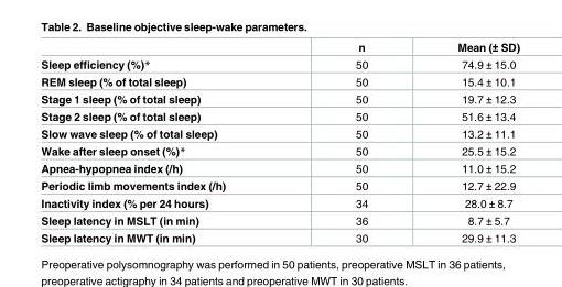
<table><thead><tr><td></td><td>n</td><td>Mean (± SD)</td></tr></thead><tbody><tr><td>Sleep efficiency (%)*</td><td>50</td><td>74.9 ± 15.0</td></tr><tr><td>REM sleep (% of total sleep)</td><td>50</td><td>15.4 ± 10.1</td></tr><tr><td>Stage 1 sleep (% of total sleep)</td><td>50</td><td>19.7 ± 12.3</td></tr><tr><td>Stage 2 sleep (% of total sleep)</td><td>50</td><td>51.6 ± 13.4</td></tr><tr><td>Slow wave sleep (% of total sleep)</td><td>50</td><td>13.2 ± 11.1</td></tr><tr><td>Wake after sleep onset (%)*</td><td>50</td><td>25.5 ± 15.2</td></tr><tr><td>Apnea-hypopnea index (/h)</td><td>50</td><td>11.0 ± 15.2</td></tr><tr><td>Periodic limb movements index (/h)</td><td>50</td><td>12.7 ± 22.9</td></tr><tr><td>Inactivity index (% per 24 hours)</td><td>34</td><td>28.0 ± 8.7</td></tr><tr><td>Sleep latency in MSLT (in min)</td><td>36</td><td>8.7 ± 5.7</td></tr><tr><td>Sleep latency in MWT (in min)</td><td>30</td><td>29.9 ± 11.3</td></tr></tbody></table>